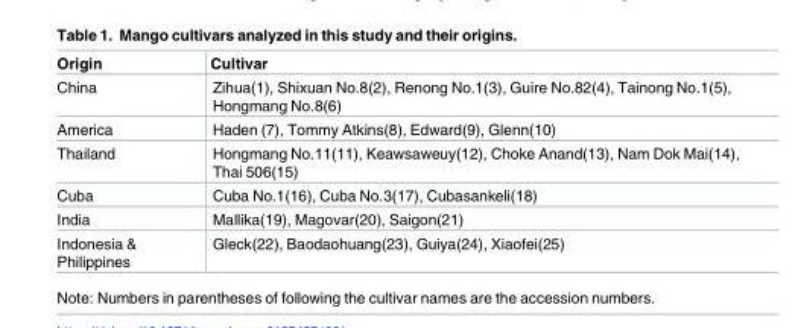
<table><thead><tr><td>Origin</td><td>Cultivar</td></tr></thead><tbody><tr><td>China</td><td>Zihua(1), Shixuan No.8(2), Renong No.1(3), Guire No.82(4), Tainong No.1(5), Hongmang No.8(6)</td></tr><tr><td>America</td><td>Haden (7), Tommy Atkins(8), Edward(9), Glenn(10)</td></tr><tr><td>Thailand</td><td>Hongmang No.11(11), Keawsaweuy(12), Choke Anand(13), Nam Dok Mai(14), Thai 506(15)</td></tr><tr><td>Cuba</td><td>Cuba No.1(16), Cuba No.3(17), Cubasankeli(18)</td></tr><tr><td>India</td><td>Mallika(19), Magovar(20), Saigon(21)</td></tr><tr><td>Indonesia &amp; Philippines</td><td>Gleck(22), Baodaohuang(23), Guiya(24), Xiaofei(25)</td></tr></tbody></table>